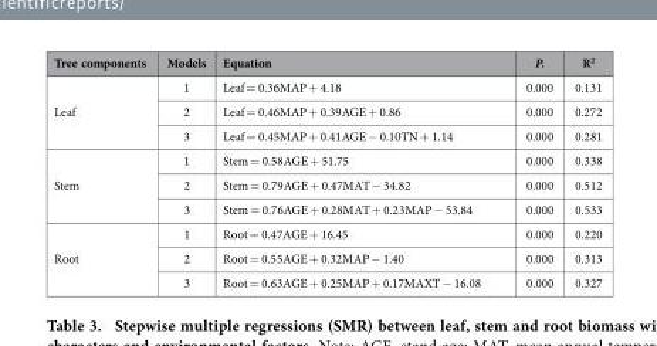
<table><thead><tr><td>Tree components</td><td>Models</td><td>Equation</td><td>P.</td><td>R<sup>2</sup></td></tr></thead><tbody><tr><td rowspan="3">Leaf</td><td>1</td><td>Leaf = 0.36MAP + 4.18</td><td>0.000</td><td>0.131</td></tr><tr><td>2</td><td>Leaf = 0.46MAP + 0.39AGE + 0.86</td><td>0.000</td><td>0.272</td></tr><tr><td>3</td><td>Leaf = 0.45MAP + 0.41AGE − 0.10TN + 1.14</td><td>0.000</td><td>0.281</td></tr><tr><td rowspan="3">Stem</td><td>1</td><td>Stem = 0.58AGE + 51.75</td><td>0.000</td><td>0.338</td></tr><tr><td>2</td><td>Stem = 0.79AGE + 0.47MAT − 34.82</td><td>0.000</td><td>0.512</td></tr><tr><td>3</td><td>Stem = 0.76AGE + 0.28MAT + 0.23MAP − 53.84</td><td>0.000</td><td>0.533</td></tr><tr><td rowspan="3">Root</td><td>1</td><td>Root = 0.47AGE + 16.45</td><td>0.000</td><td>0.220</td></tr><tr><td>2</td><td>Root = 0.55AGE + 0.32MAP − 1.40</td><td>0.000</td><td>0.313</td></tr><tr><td>3</td><td>Root = 0.63AGE + 0.25MAP + 0.17MAXT − 16.08</td><td>0.000</td><td>0.327</td></tr></tbody></table>